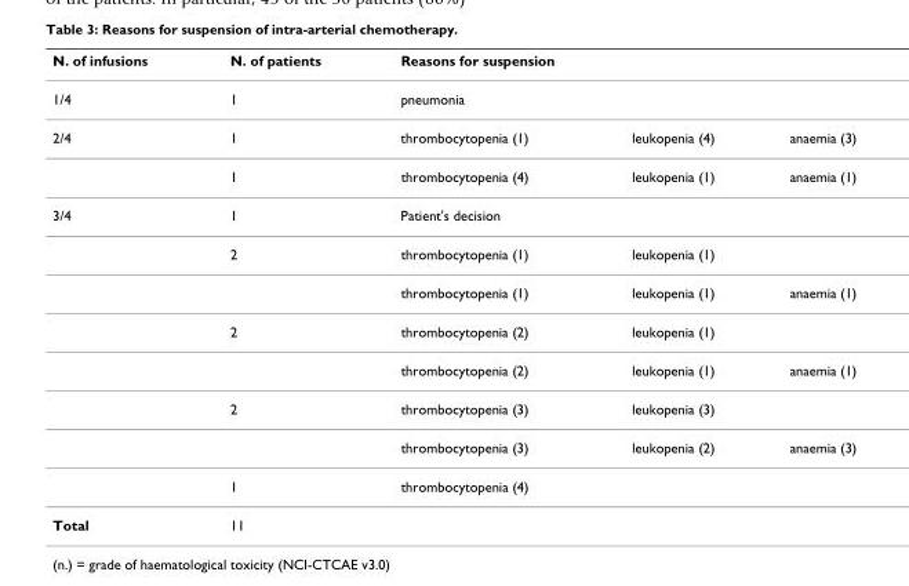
<table><thead><tr><td rowspan="2">N. of infusions 1/4</td><td rowspan="2">N. of patients 1</td><td colspan="3">Reasons for suspension</td></tr><tr><td>pneumonia</td><td></td><td></td></tr></thead><tbody><tr><td rowspan="2">2/4</td><td>1</td><td>thrombocytopenia (1)</td><td>leukopenia (4)</td><td>anaemia (3)</td></tr><tr><td>1</td><td>thrombocytopenia (4)</td><td>leukopenia (1)</td><td>anaemia (1)</td></tr><tr><td rowspan="8">3/4</td><td>1</td><td>Patient&#x27;s decision</td><td></td><td></td></tr><tr><td>2</td><td>thrombocytopenia (1)</td><td>leukopenia (1)</td><td></td></tr><tr><td></td><td>thrombocytopenia (1)</td><td>leukopenia (1)</td><td>anaemia (1)</td></tr><tr><td>2</td><td>thrombocytopenia (2)</td><td>leukopenia (1)</td><td></td></tr><tr><td></td><td>thrombocytopenia (2)</td><td>leukopenia (1)</td><td>anaemia (1)</td></tr><tr><td>2</td><td>thrombocytopenia (3)</td><td>leukopenia (3)</td><td></td></tr><tr><td></td><td>thrombocytopenia (3)</td><td>leukopenia (2)</td><td>anaemia (3)</td></tr><tr><td>1</td><td>thrombocytopenia (4)</td><td></td><td></td></tr><tr><td>Total</td><td>11</td><td></td><td></td><td></td></tr></tbody></table>